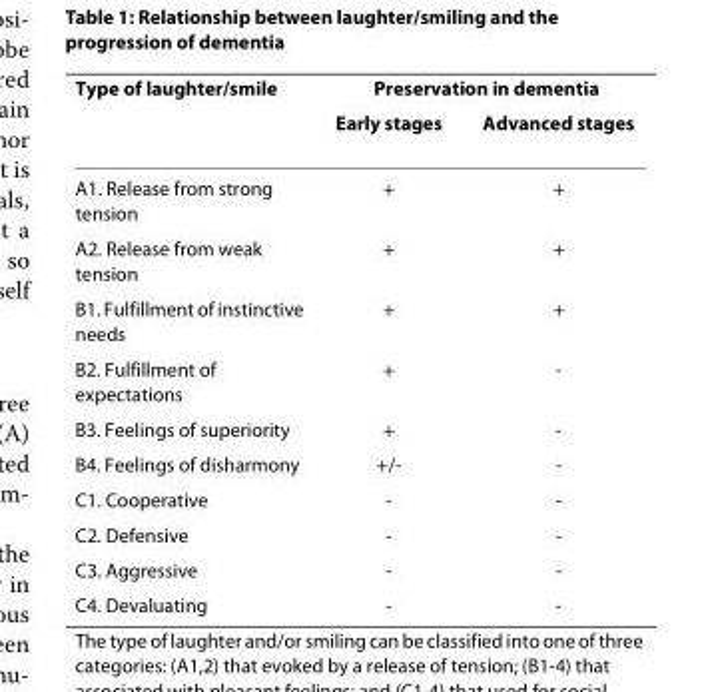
<table><thead><tr><td rowspan="2">Type of laughter/smile</td><td colspan="2">Preservation in dementia</td></tr><tr><td>Early stages</td><td>Advanced stages</td></tr></thead><tbody><tr><td>A1. Release from strong tension</td><td>+</td><td>+</td></tr><tr><td>A2. Release from weak tension</td><td>+</td><td>+</td></tr><tr><td>B1. Fulfillment of instinctive needs</td><td>+</td><td>+</td></tr><tr><td>B2. Fulfillment of expectations</td><td>+</td><td>-</td></tr><tr><td>B3. Feelings of superiority</td><td>+</td><td>-</td></tr><tr><td>B4. Feelings of disharmony</td><td>+/-</td><td>-</td></tr><tr><td>C1. Cooperative</td><td>-</td><td>-</td></tr><tr><td>C2. Defensive</td><td>-</td><td>-</td></tr><tr><td>C3. Aggressive</td><td>-</td><td>-</td></tr><tr><td>C4. Devaluating</td><td>-</td><td>-</td></tr></tbody></table>